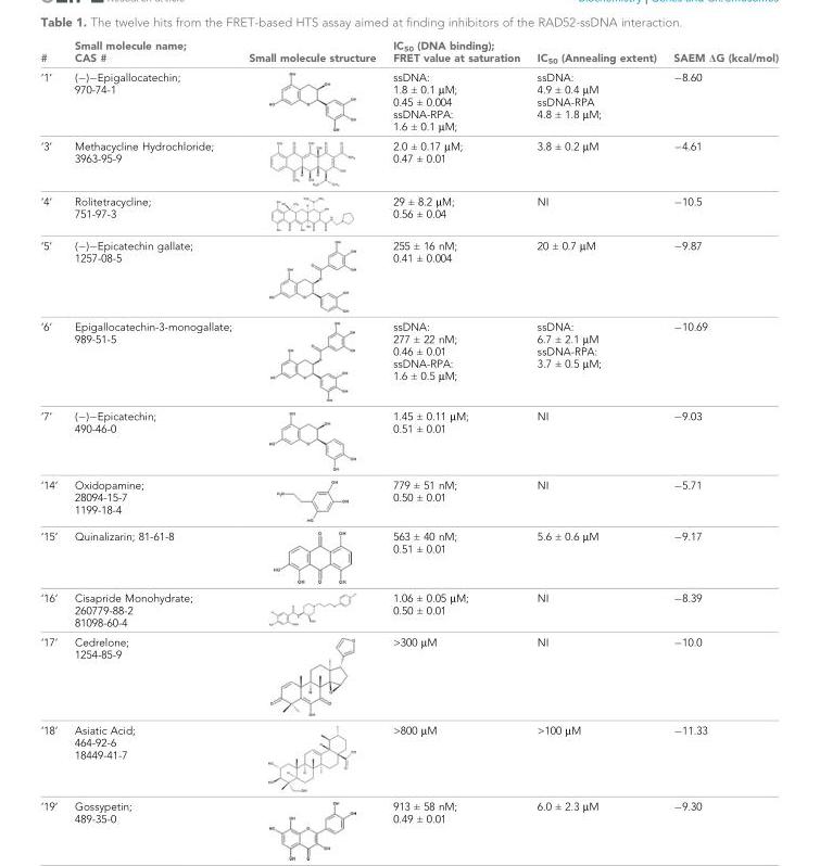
<table><thead><tr><td>#</td><td>Small molecule name; CAS #</td><td>Small molecule structure</td><td>IC<sub>50</sub> (DNA binding); FRET value at saturation</td><td>IC<sub>50</sub> (Annealing extent)</td><td>SAEM ΔG (kcal/mol)</td></tr></thead><tbody><tr><td>‘1’</td><td>(−)−Epigallocatechin; 970-74-1</td><td></td><td>ssDNA: 1.8 ± 0.1 µM; 0.45 ± 0.004 ssDNA-RPA: 1.6 ± 0.1 µM;</td><td>ssDNA: 4.9 ± 0.4 µM ssDNA-RPA 4.8 ± 1.8 µM;</td><td>−8.60</td></tr><tr><td>‘3’</td><td>Methacycline Hydrochloride; 3963-95-9</td><td></td><td>2.0 ± 0.17 µM; 0.47 ± 0.01</td><td>3.8 ± 0.2 µM</td><td>−4.61</td></tr><tr><td>‘4’</td><td>Rolitetracycline; 751-97-3</td><td></td><td>29 ± 8.2 µM; 0.56 ± 0.04</td><td>NI</td><td>−10.5</td></tr><tr><td>‘5’</td><td>(−)−Epicatechin gallate; 1257-08-5</td><td></td><td>255 ± 16 nM; 0.41 ± 0.004</td><td>20 ± 0.7 µM</td><td>−9.87</td></tr><tr><td>‘6’</td><td>Epigallocatechin-3-monogallate; 989-51-5</td><td></td><td>ssDNA: 277 ± 22 nM; 0.46 ± 0.01 ssDNA-RPA: 1.6 ± 0.5 µM;</td><td>ssDNA: 6.7 ± 2.1 µM ssDNA-RPA: 3.7 ± 0.5 µM;</td><td>−10.69</td></tr><tr><td>‘7’</td><td>(−)−Epicatechin; 490-46-0</td><td></td><td>1.45 ± 0.11 µM; 0.51 ± 0.01</td><td>NI</td><td>−9.03</td></tr><tr><td>‘14’</td><td>Oxidopamine; 28094-15-7 1199-18-4</td><td></td><td>779 ± 51 nM; 0.50 ± 0.01</td><td>NI</td><td>−5.71</td></tr><tr><td>‘15’</td><td>Quinalizarin; 81-61-8</td><td></td><td>563 ± 40 nM; 0.51 ± 0.01</td><td>5.6 ± 0.6 µM</td><td>−9.17</td></tr><tr><td>‘16’</td><td>Cisapride Monohydrate; 260779-88-2 81098-60-4</td><td></td><td>1.06 ± 0.05 µM; 0.50 ± 0.01</td><td>NI</td><td>−8.39</td></tr><tr><td>‘17’</td><td>Cedrelone; 1254-85-9</td><td></td><td>&gt;300 µM</td><td>NI</td><td>−10.0</td></tr><tr><td>‘18’</td><td>Asiatic Acid; 464-92-6 18449-41-7</td><td></td><td>&gt;800 µM</td><td>&gt;100 µM</td><td>−11.33</td></tr><tr><td>‘19’</td><td>Gossypetin; 489-35-0</td><td></td><td>913 ± 58 nM; 0.49 ± 0.01</td><td>6.0 ± 2.3 µM</td><td>−9.30</td></tr></tbody></table>